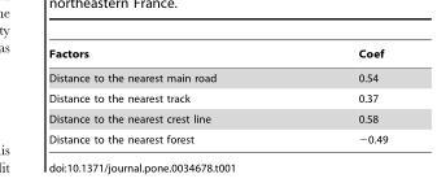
<table><thead><tr><td>Factors</td><td>Coef</td></tr></thead><tbody><tr><td>Distance to the nearest main road</td><td>0.54</td></tr><tr><td>Distance to the nearest track</td><td>0.37</td></tr><tr><td>Distance to the nearest crest line</td><td>0.58</td></tr><tr><td>Distance to the nearest forest</td><td>−0.49</td></tr></tbody></table>